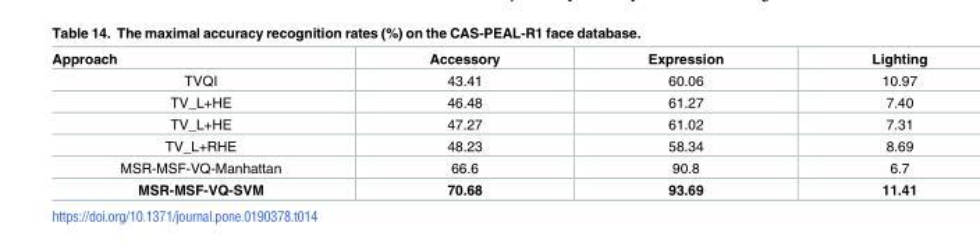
<table><thead><tr><td>Approach</td><td>Accessory</td><td>Expression</td><td>Lighting</td></tr></thead><tbody><tr><td>TVQI</td><td>43.41</td><td>60.06</td><td>10.97</td></tr><tr><td>TV_L+HE</td><td>46.48</td><td>61.27</td><td>7.40</td></tr><tr><td>TV_L+HE</td><td>47.27</td><td>61.02</td><td>7.31</td></tr><tr><td>TV_L+RHE</td><td>48.23</td><td>58.34</td><td>8.69</td></tr><tr><td>MSR-MSF-VQ-Manhattan</td><td>66.6</td><td>90.8</td><td>6.7</td></tr><tr><td>MSR-MSF-VQ-SVM</td><td>70.68</td><td>93.69</td><td>11.41</td></tr></tbody></table>